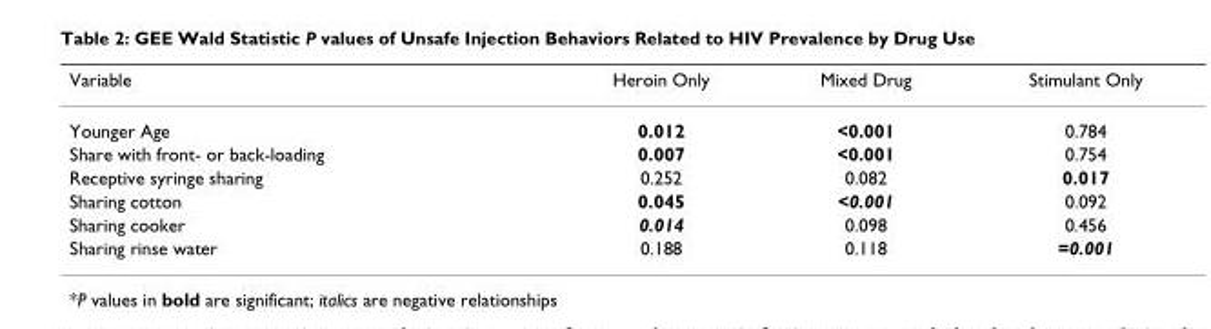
<table><thead><tr><td>Variable</td><td>Heroin Only</td><td>Mixed Drug</td><td>Stimulant Only</td></tr></thead><tbody><tr><td>Younger Age</td><td>0.012</td><td>&lt;0.001</td><td>0.784</td></tr><tr><td>Share with front- or back-loading</td><td>0.007</td><td>&lt;0.001</td><td>0.754</td></tr><tr><td>Receptive syringe sharing</td><td>0.252</td><td>0.082</td><td>0.017</td></tr><tr><td>Sharing cotton</td><td>0.045</td><td>&lt;0.001</td><td>0.092</td></tr><tr><td>Sharing cooker</td><td>0.014</td><td>0.098</td><td>0.456</td></tr><tr><td>Sharing rinse water</td><td>0.188</td><td>0.118</td><td>=0.001</td></tr></tbody></table>